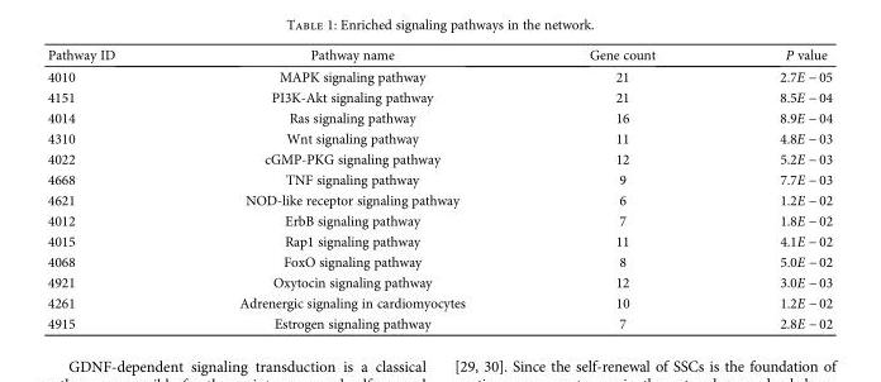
<table><thead><tr><td>Pathway ID</td><td>Pathway name</td><td>Gene count</td><td>P value</td></tr></thead><tbody><tr><td>4010</td><td>MAPK signaling pathway</td><td>21</td><td>2.7E − 05</td></tr><tr><td>4151</td><td>PI3K-Akt signaling pathway</td><td>21</td><td>8.5E − 04</td></tr><tr><td>4014</td><td>Ras signaling pathway</td><td>16</td><td>8.9E − 04</td></tr><tr><td>4310</td><td>Wnt signaling pathway</td><td>11</td><td>4.8E − 03</td></tr><tr><td>4022</td><td>cGMP-PKG signaling pathway</td><td>12</td><td>5.2E − 03</td></tr><tr><td>4668</td><td>TNF signaling pathway</td><td>9</td><td>7.7E − 03</td></tr><tr><td>4621</td><td>NOD-like receptor signaling pathway</td><td>6</td><td>1.2E − 02</td></tr><tr><td>4012</td><td>ErbB signaling pathway</td><td>7</td><td>1.8E − 02</td></tr><tr><td>4015</td><td>Rap1 signaling pathway</td><td>11</td><td>4.1E − 02</td></tr><tr><td>4068</td><td>FoxO signaling pathway</td><td>8</td><td>5.0E − 02</td></tr><tr><td>4921</td><td>Oxytocin signaling pathway</td><td>12</td><td>3.0E − 03</td></tr><tr><td>4261</td><td>Adrenergic signaling in cardiomyocytes</td><td>10</td><td>1.2E − 02</td></tr><tr><td>4915</td><td>Estrogen signaling pathway</td><td>7</td><td>2.8E − 02</td></tr></tbody></table>